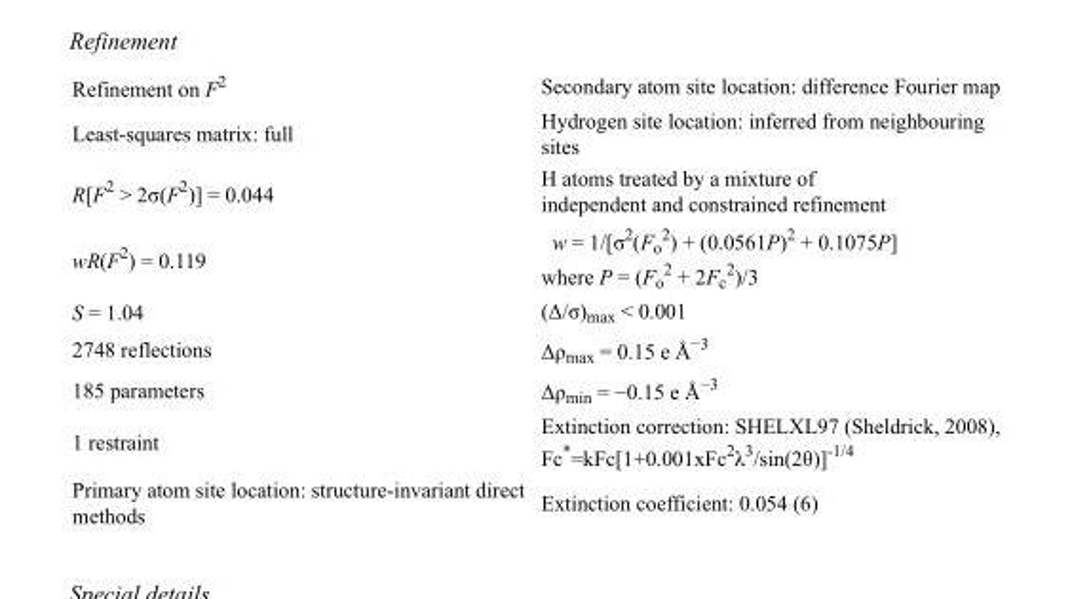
<table><tbody><tr><td>Refinement on F<sup>2</sup></td><td>Secondary atom site location: difference Fourier map</td></tr><tr><td>Least-squares matrix: full</td><td>Hydrogen site location: inferred from neighbouring sites</td></tr><tr><td>R[F<sup>2</sup> &gt; 2σ(F<sup>2</sup>)] = 0.044</td><td>H atoms treated by a mixture of independent and constrained refinement</td></tr><tr><td>wR(F<sup>2</sup>) = 0.119</td><td>w = 1/[σ<sup>2</sup>(F<sub>o</sub> <sup>2</sup>) + (0.0561P)<sup>2</sup> + 0.1075P] where P = (F<sub>o</sub> <sup>2</sup> + 2F<sub>c</sub> <sup>2</sup>)/3</td></tr><tr><td>S = 1.04</td><td>(Δ/σ)<sub>max</sub> &lt; 0.001</td></tr><tr><td>2748 reflections</td><td>Δρ<sub>max</sub> = 0.15 e Å<sup>−3</sup></td></tr><tr><td>185 parameters</td><td>Δρ<sub>min</sub> = −0.15 e Å<sup>−3</sup></td></tr><tr><td>1 restraint</td><td>Extinction correction: SHELXL97 (Sheldrick, 2008), Fc*=kFc[1+0.001xFc<sup>2</sup>λ<sup>3</sup>/sin(2θ)]<sup>-1/4</sup></td></tr><tr><td>Primary atom site location: structure-invariant direct methods</td><td>Extinction coefficient: 0.054 (6)</td></tr></tbody></table>